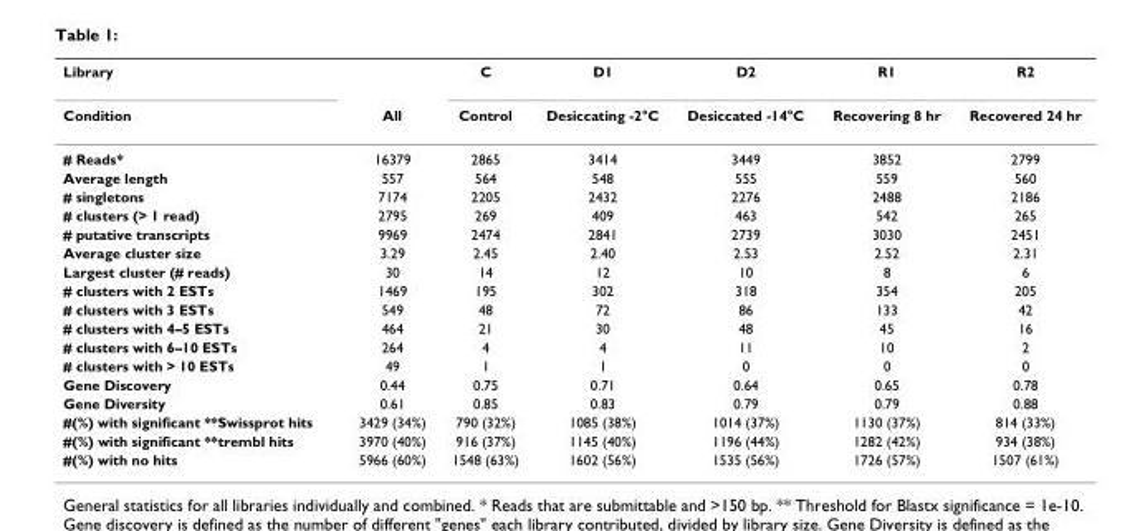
<table><thead><tr><td rowspan="2">Library Condition</td><td rowspan="2">All</td><td rowspan="2">C Control</td><td rowspan="2">D1 Desiccating -2°C</td><td rowspan="2">D2 Desiccated -14°C</td><td rowspan="2">R1 Recovering 8 hr</td><td rowspan="2">R2 Recovered 24 hr</td></tr><tr></tr></thead><tbody><tr><td># Reads*</td><td>16379</td><td>2865</td><td>3414</td><td>3449</td><td>3852</td><td>2799</td></tr><tr><td>Average length</td><td>557</td><td>564</td><td>548</td><td>555</td><td>559</td><td>560</td></tr><tr><td># singletons</td><td>7174</td><td>2205</td><td>2432</td><td>2276</td><td>2488</td><td>2186</td></tr><tr><td># clusters (&gt; 1 read)</td><td>2795</td><td>269</td><td>409</td><td>463</td><td>542</td><td>265</td></tr><tr><td># putative transcripts</td><td>9969</td><td>2474</td><td>2841</td><td>2739</td><td>3030</td><td>2451</td></tr><tr><td>Average cluster size</td><td>3.29</td><td>2.45</td><td>2.40</td><td>2.53</td><td>2.52</td><td>2.31</td></tr><tr><td>Largest cluster (# reads)</td><td>30</td><td>14</td><td>12</td><td>10</td><td>8</td><td>6</td></tr><tr><td># clusters with 2 ESTs</td><td>1469</td><td>195</td><td>302</td><td>318</td><td>354</td><td>205</td></tr><tr><td># clusters with 3 ESTs</td><td>549</td><td>48</td><td>72</td><td>86</td><td>133</td><td>42</td></tr><tr><td># clusters with 4–5 ESTs</td><td>464</td><td>21</td><td>30</td><td>48</td><td>45</td><td>16</td></tr><tr><td># clusters with 6–10 ESTs</td><td>264</td><td>4</td><td>4</td><td>11</td><td>10</td><td>2</td></tr><tr><td># clusters with &gt; 10 ESTs</td><td>49</td><td>1</td><td>1</td><td>0</td><td>0</td><td>0</td></tr><tr><td>Gene Discovery</td><td>0.44</td><td>0.75</td><td>0.71</td><td>0.64</td><td>0.65</td><td>0.78</td></tr><tr><td>Gene Diversity</td><td>0.61</td><td>0.85</td><td>0.83</td><td>0.79</td><td>0.79</td><td>0.88</td></tr><tr><td>#(%) with significant **Swissprot hits</td><td>3429 (34%)</td><td>790 (32%)</td><td>1085 (38%)</td><td>1014 (37%)</td><td>1130 (37%)</td><td>814 (33%)</td></tr><tr><td>#(%) with significant **trembl hits</td><td>3970 (40%)</td><td>916 (37%)</td><td>1145 (40%)</td><td>1196 (44%)</td><td>1282 (42%)</td><td>934 (38%)</td></tr><tr><td>#(%) with no hits</td><td>5966 (60%)</td><td>1548 (63%)</td><td>1602 (56%)</td><td>1535 (56%)</td><td>1726 (57%)</td><td>1507 (61%)</td></tr></tbody></table>